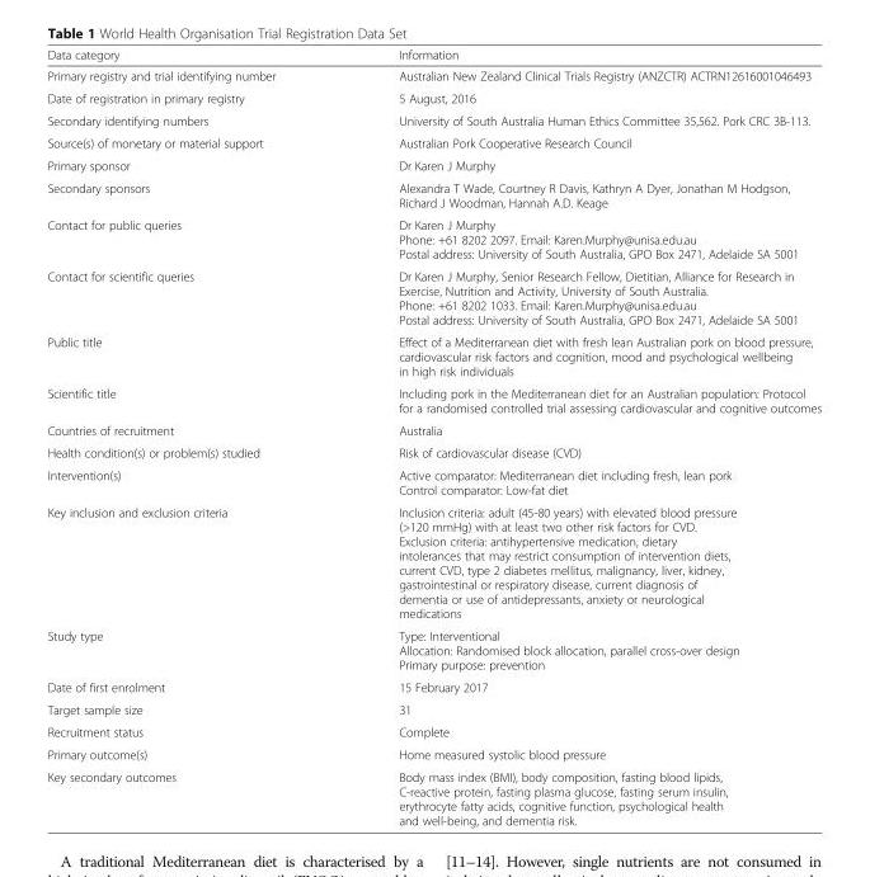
<table><thead><tr><td>Data category</td><td>Information</td></tr></thead><tbody><tr><td>Primary registry and trial identifying number</td><td>Australian New Zealand Clinical Trials Registry (ANZCTR) ACTRN12616001046493</td></tr><tr><td>Date of registration in primary registry</td><td>5 August, 2016</td></tr><tr><td>Secondary identifying numbers</td><td>University of South Australia Human Ethics Committee 35,562. Pork CRC 3B-113.</td></tr><tr><td>Source(s) of monetary or material support</td><td>Australian Pork Cooperative Research Council</td></tr><tr><td>Primary sponsor</td><td>Dr Karen J Murphy</td></tr><tr><td>Secondary sponsors</td><td>Alexandra T Wade, Courtney R Davis, Kathryn A Dyer, Jonathan M Hodgson, Richard J Woodman, Hannah A.D. Keage</td></tr><tr><td>Contact for public queries</td><td>Dr Karen J Murphy Phone: +61 8202 2097. Email: Karen.Murphy@unisa.edu.au Postal address: University of South Australia, GPO Box 2471, Adelaide SA 5001</td></tr><tr><td>Contact for scientific queries</td><td>Dr Karen J Murphy, Senior Research Fellow, Dietitian, Alliance for Research in Exercise, Nutrition and Activity, University of South Australia. Phone: +61 8202 1033. Email: Karen.Murphy@unisa.edu.au Postal address: University of South Australia, GPO Box 2471, Adelaide SA 5001</td></tr><tr><td>Public title</td><td>Effect of a Mediterranean diet with fresh lean Australian pork on blood pressure, cardiovascular risk factors and cognition, mood and psychological wellbeing in high risk individuals</td></tr><tr><td>Scientific title</td><td>Including pork in the Mediterranean diet for an Australian population: Protocol for a randomised controlled trial assessing cardiovascular and cognitive outcomes</td></tr><tr><td>Countries of recruitment</td><td>Australia</td></tr><tr><td>Health condition(s) or problem(s) studied</td><td>Risk of cardiovascular disease (CVD)</td></tr><tr><td>Intervention(s)</td><td>Active comparator: Mediterranean diet including fresh, lean pork Control comparator: Low-fat diet</td></tr><tr><td>Key inclusion and exclusion criteria</td><td>Inclusion criteria: adult (45-80 years) with elevated blood pressure (&gt;120 mmHg) with at least two other risk factors for CVD. Exclusion criteria: antihypertensive medication, dietary intolerances that may restrict consumption of intervention diets, current CVD, type 2 diabetes mellitus, malignancy, liver, kidney, gastrointestinal or respiratory disease, current diagnosis of dementia or use of antidepressants, anxiety or neurological medications</td></tr><tr><td>Study type</td><td>Type: Interventional Allocation: Randomised block allocation, parallel cross-over design Primary purpose: prevention</td></tr><tr><td>Date of first enrolment</td><td>15 February 2017</td></tr><tr><td>Target sample size</td><td>31</td></tr><tr><td>Recruitment status</td><td>Complete</td></tr><tr><td>Primary outcome(s)</td><td>Home measured systolic blood pressure</td></tr><tr><td>Key secondary outcomes</td><td>Body mass index (BMI), body composition, fasting blood lipids, C-reactive protein, fasting plasma glucose, fasting serum insulin, erythrocyte fatty acids, cognitive function, psychological health and well-being, and dementia risk.</td></tr></tbody></table>